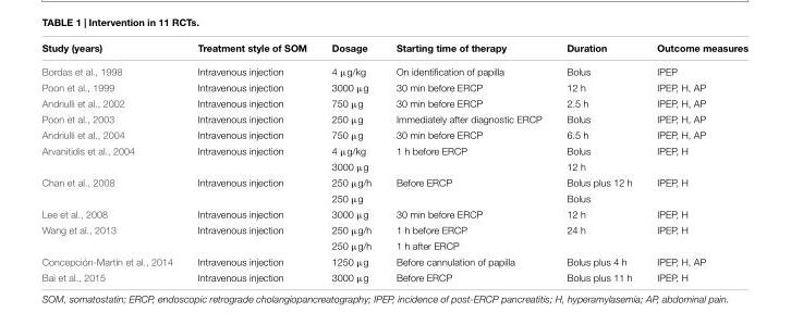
<table><thead><tr><td>Study (years)</td><td>Treatment style of SOM</td><td>Dosage</td><td>Starting time of therapy</td><td>Duration</td><td>Outcome measures</td></tr></thead><tbody><tr><td>Bordas et al., 1998</td><td>Intravenous injection</td><td>4 µg/kg</td><td>On identification of papilla</td><td>Bolus</td><td>IPEP</td></tr><tr><td>Poon et al., 1999</td><td>Intravenous injection</td><td>3000 µg</td><td>30 min before ERCP</td><td>12 h</td><td>IPEP, H, AP</td></tr><tr><td>Andriulli et al., 2002</td><td>Intravenous injection</td><td>750 µg</td><td>30 min before ERCP</td><td>2.5 h</td><td>IPEP, H, AP</td></tr><tr><td>Poon et al., 2003</td><td>Intravenous injection</td><td>250 µg</td><td>Immediately after diagnostic ERCP</td><td>Bolus</td><td>IPEP, H, AP</td></tr><tr><td>Andriulli et al., 2004</td><td>Intravenous injection</td><td>750 µg</td><td>30 min before ERCP</td><td>6.5 h</td><td>IPEP, H, AP</td></tr><tr><td rowspan="2">Arvanitidis et al., 2004</td><td>Intravenous injection</td><td>4 µg/kg</td><td>1 h before ERCP</td><td>Bolus</td><td>IPEP, H</td></tr><tr><td></td><td>3000 µg</td><td></td><td>12 h</td><td></td></tr><tr><td rowspan="2">Chan et al., 2008</td><td>Intravenous injection</td><td>250 µg/h</td><td>Before ERCP</td><td>Bolus plus 12 h</td><td>IPEP, H</td></tr><tr><td></td><td>250 µg</td><td></td><td>Bolus</td><td></td></tr><tr><td>Lee et al., 2008</td><td>Intravenous injection</td><td>3000 µg</td><td>30 min before ERCP</td><td>12 h</td><td>IPEP, H</td></tr><tr><td rowspan="2">Wang et al., 2013</td><td>Intravenous injection</td><td>250 µg/h</td><td>1 h before ERCP</td><td>24 h</td><td>IPEP, H</td></tr><tr><td></td><td>250 µg/h</td><td>1 h after ERCP</td><td></td><td></td></tr><tr><td>Concepción-Martín et al., 2014</td><td>Intravenous injection</td><td>1250 µg</td><td>Before cannulation of papilla</td><td>Bolus plus 4 h</td><td>IPEP, H, AP</td></tr><tr><td>Bai et al., 2015</td><td>Intravenous injection</td><td>3000 µg</td><td>Before ERCP</td><td>Bolus plus 11 h</td><td>IPEP, H</td></tr></tbody></table>